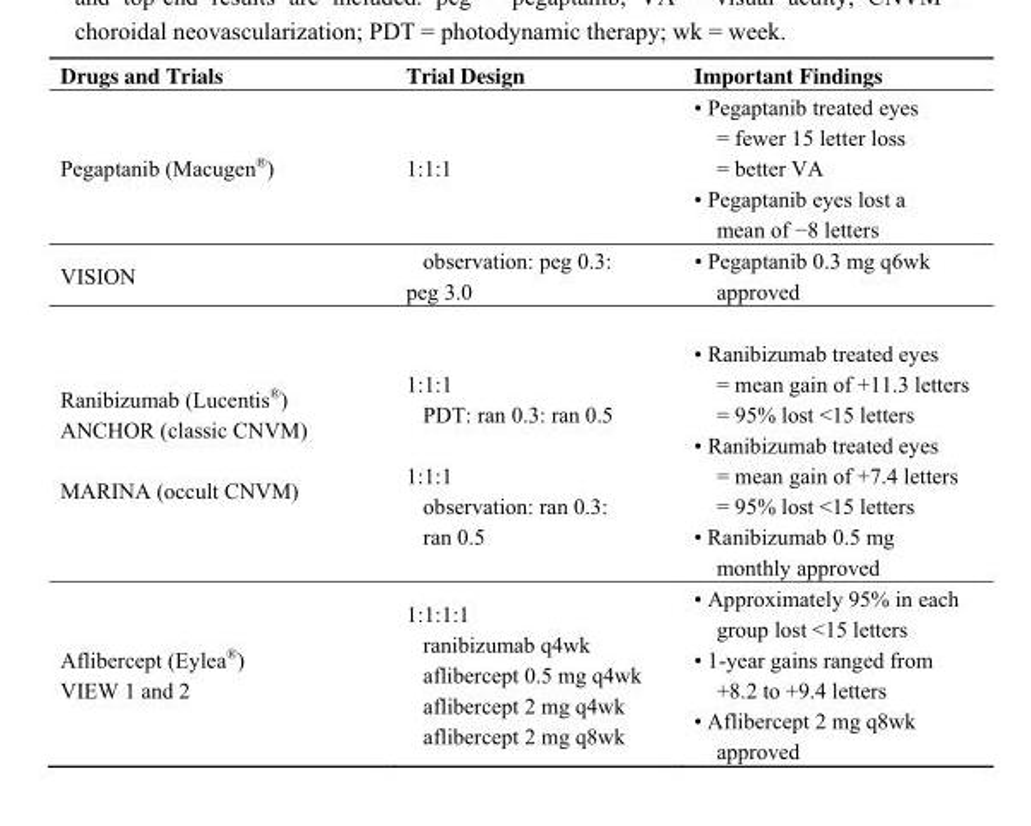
<table><thead><tr><td>Drugs and Trials</td><td>Trial Design</td><td>Important Findings</td></tr></thead><tbody><tr><td rowspan="5">Pegaptanib (Macugen<sup>®</sup>)</td><td rowspan="5">1:1:1</td><td>• Pegaptanib treated eyes</td></tr><tr><td>= fewer 15 letter loss</td></tr><tr><td>= better VA</td></tr><tr><td>• Pegaptanib eyes lost a</td></tr><tr><td>mean of −8 letters</td></tr><tr><td rowspan="2">VISION</td><td>observation: peg 0.3:</td><td>• Pegaptanib 0.3 mg q6wk</td></tr><tr><td>peg 3.0</td><td>approved</td></tr><tr><td rowspan="3">Ranibizumab (Lucentis<sup>®</sup>) ANCHOR (classic CNVM) MARINA (occult CNVM)</td><td rowspan="3">1:1:1 PDT: ran 0.3: ran 0.5 1:1:1 observation: ran 0.3: ran 0.5</td><td>• Ranibizumab treated eyes = mean gain of +11.3 letters = 95% lost &lt;15 letters</td></tr><tr><td>• Ranibizumab treated eyes = mean gain of +7.4 letters = 95% lost &lt;15 letters</td></tr><tr><td>• Ranibizumab 0.5 mg monthly approved</td></tr><tr><td>Aflibercept (Eylea<sup>®</sup>) VIEW 1 and 2</td><td>1:1:1:1 ranibizumab q4wk aflibercept 0.5 mg q4wk aflibercept 2 mg q4wk aflibercept 2 mg q8wk</td><td>• Approximately 95% in each group lost &lt;15 letters • 1-year gains ranged from +8.2 to +9.4 letters • Aflibercept 2 mg q8wk approved</td></tr></tbody></table>